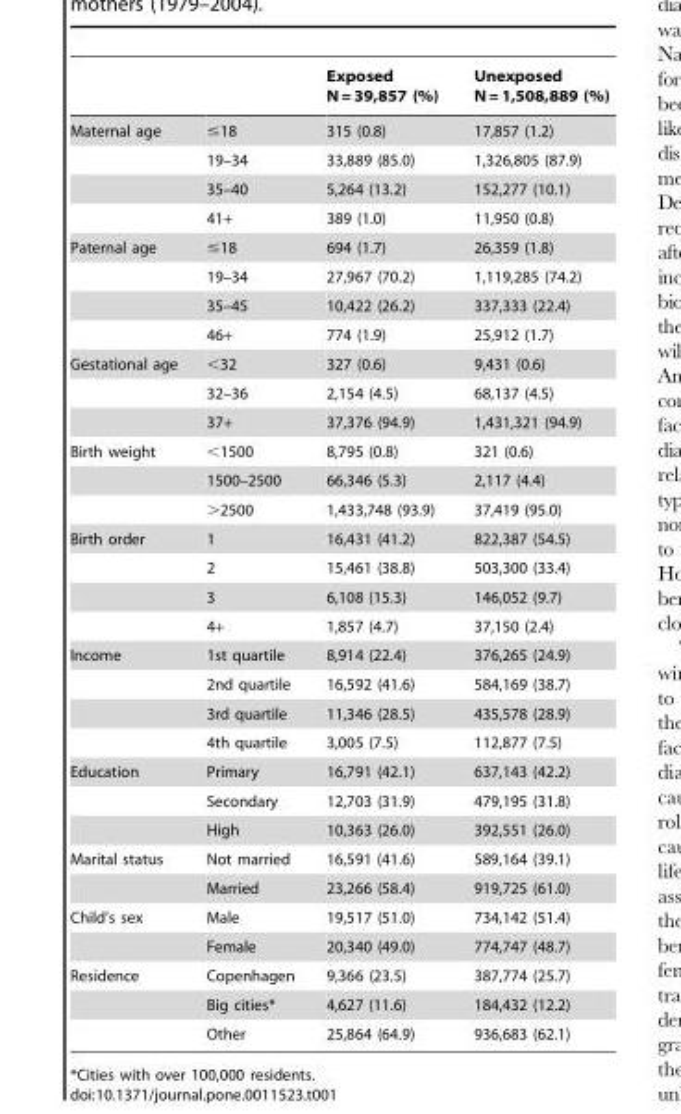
<table><thead><tr><td></td><td></td><td>Exposed N = 39,857 (%)</td><td>Unexposed N = 1,508,889 (%)</td></tr></thead><tbody><tr><td rowspan="4">Maternal age</td><td>≤18</td><td>315 (0.8)</td><td>17,857 (1.2)</td></tr><tr><td>19–34</td><td>33,889 (85.0)</td><td>1,326,805 (87.9)</td></tr><tr><td>35–40</td><td>5,264 (13.2)</td><td>152,277 (10.1)</td></tr><tr><td>41+</td><td>389 (1.0)</td><td>11,950 (0.8)</td></tr><tr><td rowspan="4">Paternal age</td><td>≤18</td><td>694 (1.7)</td><td>26,359 (1.8)</td></tr><tr><td>19–34</td><td>27,967 (70.2)</td><td>1,119,285 (74.2)</td></tr><tr><td>35–45</td><td>10,422 (26.2)</td><td>337,333 (22.4)</td></tr><tr><td>46+</td><td>774 (1.9)</td><td>25,912 (1.7)</td></tr><tr><td rowspan="3">Gestational age</td><td>&lt;32</td><td>327 (0.6)</td><td>9,431 (0.6)</td></tr><tr><td>32–36</td><td>2,154 (4.5)</td><td>68,137 (4.5)</td></tr><tr><td>37+</td><td>37,376 (94.9)</td><td>1,431,321 (94.9)</td></tr><tr><td rowspan="3">Birth weight</td><td>&lt;1500</td><td>8,795 (0.8)</td><td>321 (0.6)</td></tr><tr><td>1500–2500</td><td>66,346 (5.3)</td><td>2,117 (4.4)</td></tr><tr><td>&gt;2500</td><td>1,433,748 (93.9)</td><td>37,419 (95.0)</td></tr><tr><td rowspan="4">Birth order</td><td>1</td><td>16,431 (41.2)</td><td>822,387 (54.5)</td></tr><tr><td>2</td><td>15,461 (38.8)</td><td>503,300 (33.4)</td></tr><tr><td>3</td><td>6,108 (15.3)</td><td>146,052 (9.7)</td></tr><tr><td>4+</td><td>1,857 (4.7)</td><td>37,150 (2.4)</td></tr><tr><td rowspan="4">Income</td><td>1st quartile</td><td>8,914 (22.4)</td><td>376,265 (24.9)</td></tr><tr><td>2nd quartile</td><td>16,592 (41.6)</td><td>584,169 (38.7)</td></tr><tr><td>3rd quartile</td><td>11,346 (28.5)</td><td>435,578 (28.9)</td></tr><tr><td>4th quartile</td><td>3,005 (7.5)</td><td>112,877 (7.5)</td></tr><tr><td rowspan="3">Education</td><td>Primary</td><td>16,791 (42.1)</td><td>637,143 (42.2)</td></tr><tr><td>Secondary</td><td>12,703 (31.9)</td><td>479,195 (31.8)</td></tr><tr><td>High</td><td>10,363 (26.0)</td><td>392,551 (26.0)</td></tr><tr><td rowspan="2">Marital status</td><td>Not married</td><td>16,591 (41.6)</td><td>589,164 (39.1)</td></tr><tr><td>Married</td><td>23,266 (58.4)</td><td>919,725 (61.0)</td></tr><tr><td rowspan="2">Child’s sex</td><td>Male</td><td>19,517 (51.0)</td><td>734,142 (51.4)</td></tr><tr><td>Female</td><td>20,340 (49.0)</td><td>774,747 (48.7)</td></tr><tr><td rowspan="3">Residence</td><td>Copenhagen</td><td>9,366 (23.5)</td><td>387,774 (25.7)</td></tr><tr><td>Big cities*</td><td>4,627 (11.6)</td><td>184,432 (12.2)</td></tr><tr><td>Other</td><td>25,864 (64.9)</td><td>936,683 (62.1)</td></tr></tbody></table>